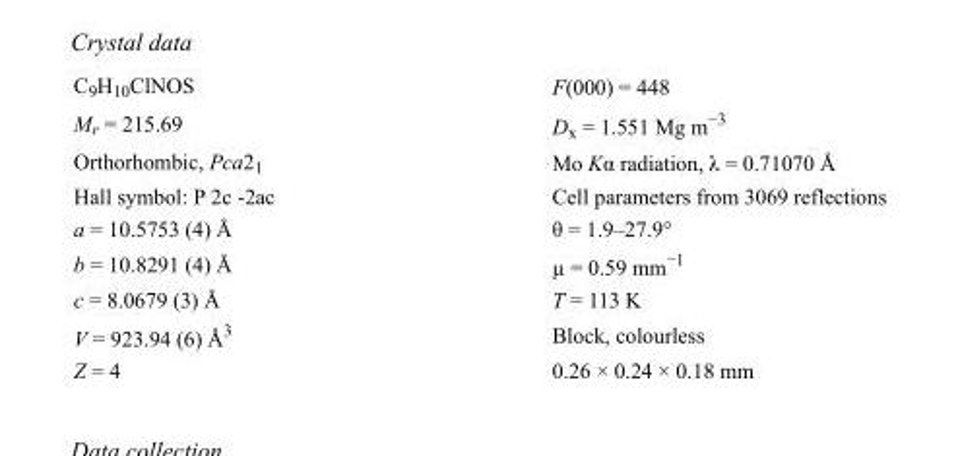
<table><tbody><tr><td>C<sub>9</sub>H<sub>10</sub>ClNOS</td><td>F(000) = 448</td></tr><tr><td>M<sub>r</sub> = 215.69</td><td>D<sub>x</sub> = 1.551 Mg m<sup>−3</sup></td></tr><tr><td>Orthorhombic, Pca2<sub>1</sub></td><td>Mo Kα radiation, λ = 0.71070 Å</td></tr><tr><td>Hall symbol: P 2c -2ac</td><td>Cell parameters from 3069 reflections</td></tr><tr><td>a = 10.5753 (4) Å</td><td>θ = 1.9–27.9°</td></tr><tr><td>b = 10.8291 (4) Å</td><td>µ = 0.59 mm<sup>−1</sup></td></tr><tr><td>c = 8.0679 (3) Å</td><td>T = 113 K</td></tr><tr><td>V = 923.94 (6) Å<sup>3</sup></td><td>Block, colourless</td></tr><tr><td>Z = 4</td><td>0.26 × 0.24 × 0.18 mm</td></tr></tbody></table>